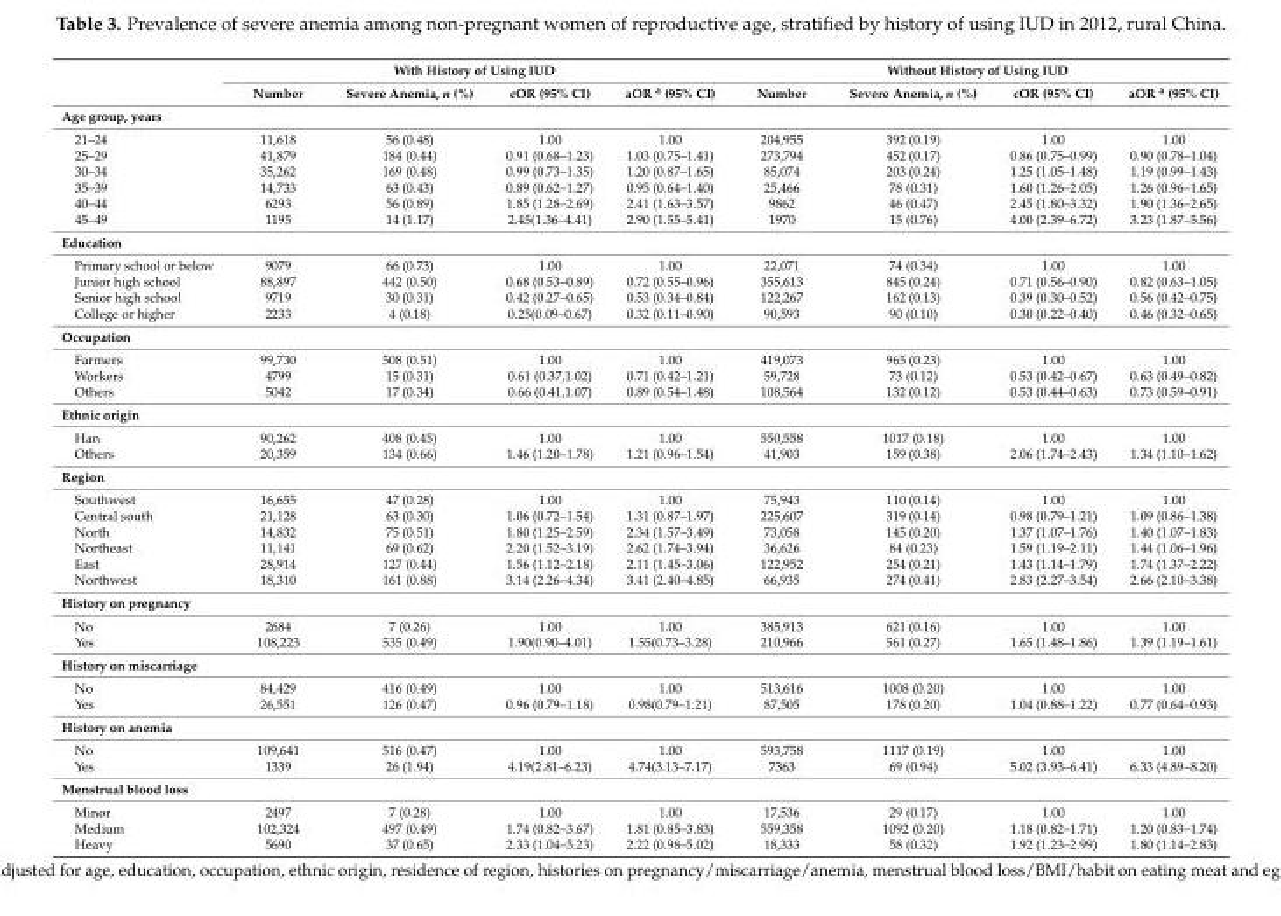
<table><thead><tr><td rowspan="2"></td><td colspan="4">With History of Using IUD</td><td colspan="4">Without History of Using IUD</td></tr><tr><td>Number</td><td>Severe Anemia, n (%)</td><td>cOR (95% CI)</td><td>aOR <sup>a</sup> (95% CI)</td><td>Number</td><td>Severe Anemia, n (%)</td><td>cOR (95% CI)</td><td>aOR <sup>a</sup> (95% CI)</td></tr></thead><tbody><tr><td colspan="9">Age group, years</td></tr><tr><td>21–24</td><td>11,618</td><td>56 (0.48)</td><td>1.00</td><td>1.00</td><td>204,955</td><td>392 (0.19)</td><td>1.00</td><td>1.00</td></tr><tr><td>25–29</td><td>41,879</td><td>184 (0.44)</td><td>0.91 (0.68–1.23)</td><td>1.03 (0.75–1.41)</td><td>273,794</td><td>452 (0.17)</td><td>0.86 (0.75–0.99)</td><td>0.90 (0.78–1.04)</td></tr><tr><td>30–34</td><td>35,262</td><td>169 (0.48)</td><td>0.99 (0.73–1.35)</td><td>1.20 (0.87–1.65)</td><td>85,074</td><td>203 (0.24)</td><td>1.25 (1.05–1.48)</td><td>1.19 (0.99–1.43)</td></tr><tr><td>35–39</td><td>14,733</td><td>63 (0.43)</td><td>0.89 (0.62–1.27)</td><td>0.95 (0.64–1.40)</td><td>25,466</td><td>78 (0.31)</td><td>1.60 (1.26–2.05)</td><td>1.26 (0.96–1.65)</td></tr><tr><td>40–44</td><td>6293</td><td>56 (0.89)</td><td>1.85 (1.28–2.69)</td><td>2.41 (1.63–3.57)</td><td>9862</td><td>46 (0.47)</td><td>2.45 (1.80–3.32)</td><td>1.90 (1.36–2.65)</td></tr><tr><td>45–49</td><td>1195</td><td>14 (1.17)</td><td>2.45(1.36–4.41)</td><td>2.90 (1.55–5.41)</td><td>1970</td><td>15 (0.76)</td><td>4.00 (2.39–6.72)</td><td>3.23 (1.87–5.56)</td></tr><tr><td colspan="9">Education</td></tr><tr><td>Primary school or below</td><td>9079</td><td>66 (0.73)</td><td>1.00</td><td>1.00</td><td>22,071</td><td>74 (0.34)</td><td>1.00</td><td>1.00</td></tr><tr><td>Junior high school</td><td>88,897</td><td>442 (0.50)</td><td>0.68 (0.53–0.89)</td><td>0.72 (0.55–0.96)</td><td>355,613</td><td>845 (0.24)</td><td>0.71 (0.56–0.90)</td><td>0.82 (0.63–1.05)</td></tr><tr><td>Senior high school</td><td>9719</td><td>30 (0.31)</td><td>0.42 (0.27–0.65)</td><td>0.53 (0.34–0.84)</td><td>122,267</td><td>162 (0.13)</td><td>0.39 (0.30–0.52)</td><td>0.56 (0.42–0.75)</td></tr><tr><td>College or higher</td><td>2233</td><td>4 (0.18)</td><td>0.25(0.09–0.67)</td><td>0.32 (0.11–0.90)</td><td>90,593</td><td>90 (0.10)</td><td>0.30 (0.22–0.40)</td><td>0.46 (0.32–0.65)</td></tr><tr><td colspan="9">Occupation</td></tr><tr><td>Farmers</td><td>99,730</td><td>508 (0.51)</td><td>1.00</td><td>1.00</td><td>419,073</td><td>965 (0.23)</td><td>1.00</td><td>1.00</td></tr><tr><td>Workers</td><td>4799</td><td>15 (0.31)</td><td>0.61 (0.37,1.02)</td><td>0.71 (0.42–1.21)</td><td>59,728</td><td>73 (0.12)</td><td>0.53 (0.42–0.67)</td><td>0.63 (0.49–0.82)</td></tr><tr><td>Others</td><td>5042</td><td>17 (0.34)</td><td>0.66 (0.41,1.07)</td><td>0.89 (0.54–1.48)</td><td>108,564</td><td>132 (0.12)</td><td>0.53 (0.44–0.63)</td><td>0.73 (0.59–0.91)</td></tr><tr><td colspan="9">Ethnic origin</td></tr><tr><td>Han</td><td>90,262</td><td>408 (0.45)</td><td>1.00</td><td>1.00</td><td>550,558</td><td>1017 (0.18)</td><td>1.00</td><td>1.00</td></tr><tr><td>Others</td><td>20,359</td><td>134 (0.66)</td><td>1.46 (1.20–1.78)</td><td>1.21 (0.96–1.54)</td><td>41,903</td><td>159 (0.38)</td><td>2.06 (1.74–2.43)</td><td>1.34 (1.10–1.62)</td></tr><tr><td colspan="9">Region</td></tr><tr><td>Southwest</td><td>16,655</td><td>47 (0.28)</td><td>1.00</td><td>1.00</td><td>75,943</td><td>110 (0.14)</td><td>1.00</td><td>1.00</td></tr><tr><td>Central south</td><td>21,128</td><td>63 (0.30)</td><td>1.06 (0.72–1.54)</td><td>1.31 (0.87–1.97)</td><td>225,607</td><td>319 (0.14)</td><td>0.98 (0.79–1.21)</td><td>1.09 (0.86–1.38)</td></tr><tr><td>North</td><td>14,832</td><td>75 (0.51)</td><td>1.80 (1.25–2.59)</td><td>2.34 (1.57–3.49)</td><td>73,058</td><td>145 (0.20)</td><td>1.37 (1.07–1.76)</td><td>1.40 (1.07–1.83)</td></tr><tr><td>Northeast</td><td>11,141</td><td>69 (0.62)</td><td>2.20 (1.52–3.19)</td><td>2.62 (1.74–3.94)</td><td>36,626</td><td>84 (0.23)</td><td>1.59 (1.19–2.11)</td><td>1.44 (1.06–1.96)</td></tr><tr><td>East</td><td>28,914</td><td>127 (0.44)</td><td>1.56 (1.12–2.18)</td><td>2.11 (1.45–3.06)</td><td>122,952</td><td>254 (0.21)</td><td>1.43 (1.14–1.79)</td><td>1.74 (1.37–2.22)</td></tr><tr><td>Northwest</td><td>18,310</td><td>161 (0.88)</td><td>3.14 (2.26–4.34)</td><td>3.41 (2.40–4.85)</td><td>66,935</td><td>274 (0.41)</td><td>2.83 (2.27–3.54)</td><td>2.66 (2.10–3.38)</td></tr><tr><td colspan="9">History on pregnancy</td></tr><tr><td>No</td><td>2684</td><td>7 (0.26)</td><td>1.00</td><td>1.00</td><td>385,913</td><td>621 (0.16)</td><td>1.00</td><td>1.00</td></tr><tr><td>Yes</td><td>108,223</td><td>535 (0.49)</td><td>1.90(0.90–4.01)</td><td>1.55(0.73–3.28)</td><td>210,966</td><td>561 (0.27)</td><td>1.65 (1.48–1.86)</td><td>1.39 (1.19–1.61)</td></tr><tr><td colspan="9">History on miscarriage</td></tr><tr><td>No</td><td>84,429</td><td>416 (0.49)</td><td>1.00</td><td>1.00</td><td>513,616</td><td>1008 (0.20)</td><td>1.00</td><td>1.00</td></tr><tr><td>Yes</td><td>26,551</td><td>126 (0.47)</td><td>0.96 (0.79–1.18)</td><td>0.98(0.79–1.21)</td><td>87,505</td><td>178 (0.20)</td><td>1.04 (0.88–1.22)</td><td>0.77 (0.64–0.93)</td></tr><tr><td colspan="9">History on anemia</td></tr><tr><td>No</td><td>109,641</td><td>516 (0.47)</td><td>1.00</td><td>1.00</td><td>593,758</td><td>1117 (0.19)</td><td>1.00</td><td>1.00</td></tr><tr><td>Yes</td><td>1339</td><td>26 (1.94)</td><td>4.19(2.81–6.23)</td><td>4.74(3.13–7.17)</td><td>7363</td><td>69 (0.94)</td><td>5.02 (3.93–6.41)</td><td>6.33 (4.89–8.20)</td></tr><tr><td colspan="9">Menstrual blood loss</td></tr><tr><td>Minor</td><td>2497</td><td>7 (0.28)</td><td>1.00</td><td>1.00</td><td>17,536</td><td>29 (0.17)</td><td>1.00</td><td>1.00</td></tr><tr><td>Medium</td><td>102,324</td><td>497 (0.49)</td><td>1.74 (0.82–3.67)</td><td>1.81 (0.85–3.83)</td><td>559,358</td><td>1092 (0.20)</td><td>1.18 (0.82–1.71)</td><td>1.20 (0.83–1.74)</td></tr><tr><td>Heavy</td><td>5690</td><td>37 (0.65)</td><td>2.33 (1.04–5.23)</td><td>2.22 (0.98–5.02)</td><td>18,333</td><td>58 (0.32)</td><td>1.92 (1.23–2.99)</td><td>1.80 (1.14–2.83)</td></tr></tbody></table>